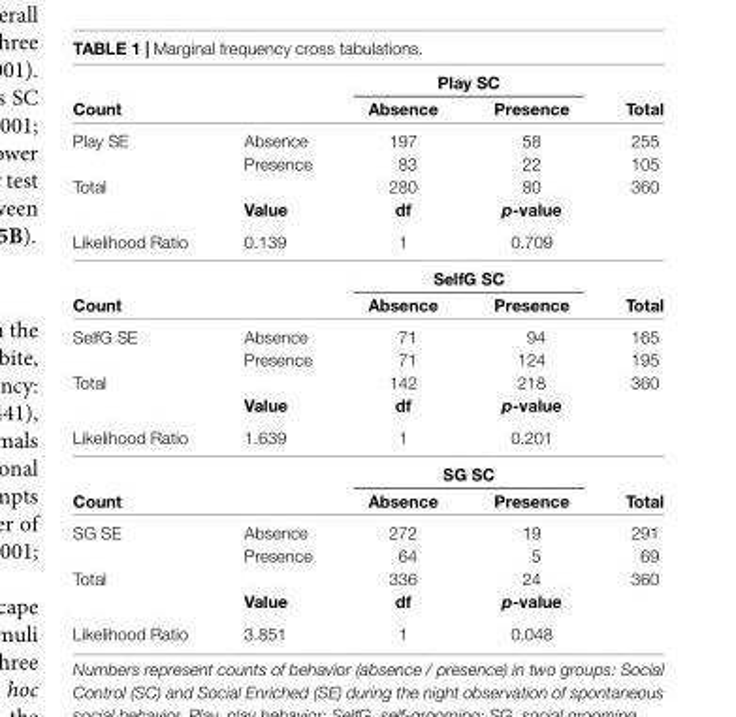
<table><thead><tr><td rowspan="2">Count</td><td rowspan="2"></td><td colspan="2">Play SC</td><td rowspan="2">Total</td></tr><tr><td>Absence</td><td>Presence</td></tr></thead><tbody><tr><td rowspan="2">Play SE</td><td>Absence</td><td>197</td><td>58</td><td>255</td></tr><tr><td>Presence</td><td>83</td><td>22</td><td>105</td></tr><tr><td rowspan="2">Total</td><td></td><td>280</td><td>80</td><td>360</td></tr><tr><td>Value</td><td>df</td><td>p-value</td><td></td></tr><tr><td rowspan="2">Likelihood Ratio</td><td>0.139</td><td>1</td><td>0.709</td><td></td></tr><tr><td></td><td colspan="2">SelfG SC</td><td></td></tr><tr><td>Count</td><td></td><td>Absence</td><td>Presence</td><td>Total</td></tr><tr><td rowspan="2">SelfG SE</td><td>Absence</td><td>71</td><td>94</td><td>165</td></tr><tr><td>Presence</td><td>71</td><td>124</td><td>195</td></tr><tr><td rowspan="2">Total</td><td></td><td>142</td><td>218</td><td>360</td></tr><tr><td>Value</td><td>df</td><td>p-value</td><td></td></tr><tr><td rowspan="2">Likelihood Ratio</td><td>1.639</td><td>1</td><td>0.201</td><td></td></tr><tr><td></td><td colspan="2">SG SC</td><td></td></tr><tr><td>Count</td><td></td><td>Absence</td><td>Presence</td><td>Total</td></tr><tr><td rowspan="2">SG SE</td><td>Absence</td><td>272</td><td>19</td><td>291</td></tr><tr><td>Presence</td><td>64</td><td>5</td><td>69</td></tr><tr><td rowspan="2">Total</td><td></td><td>336</td><td>24</td><td>360</td></tr><tr><td>Value</td><td>df</td><td>p-value</td><td></td></tr><tr><td>Likelihood Ratio</td><td>3.851</td><td>1</td><td>0.048</td><td></td></tr></tbody></table>